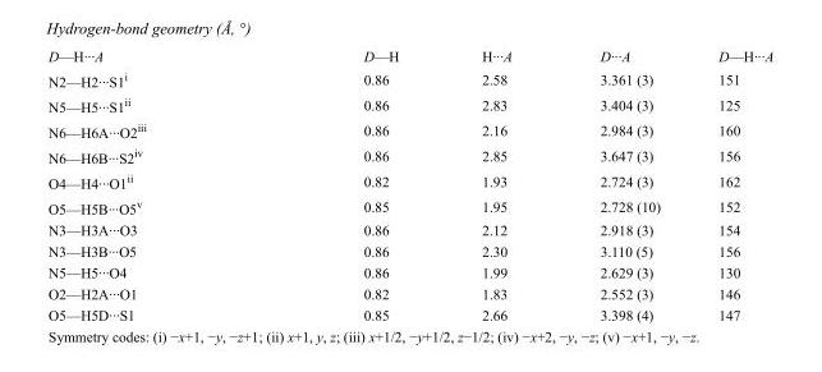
<table><tbody><tr><td>D—H···A</td><td>D—H</td><td>H···A</td><td>D···A</td><td>D—H···A</td></tr><tr><td>N2—H2···S1<sup>i</sup></td><td>0.86</td><td>2.58</td><td>3.361 (3)</td><td>151</td></tr><tr><td>N5—H5···S1<sup>ii</sup></td><td>0.86</td><td>2.83</td><td>3.404 (3)</td><td>125</td></tr><tr><td>N6—H6A···O2<sup>iii</sup></td><td>0.86</td><td>2.16</td><td>2.984 (3)</td><td>160</td></tr><tr><td>N6—H6B···S2<sup>iv</sup></td><td>0.86</td><td>2.85</td><td>3.647 (3)</td><td>156</td></tr><tr><td>O4—H4···O1<sup>ii</sup></td><td>0.82</td><td>1.93</td><td>2.724 (3)</td><td>162</td></tr><tr><td>O5—H5B···O5<sup>v</sup></td><td>0.85</td><td>1.95</td><td>2.728 (10)</td><td>152</td></tr><tr><td>N3—H3A···O3</td><td>0.86</td><td>2.12</td><td>2.918 (3)</td><td>154</td></tr><tr><td>N3—H3B···O5</td><td>0.86</td><td>2.30</td><td>3.110 (5)</td><td>156</td></tr><tr><td>N5—H5···O4</td><td>0.86</td><td>1.99</td><td>2.629 (3)</td><td>130</td></tr><tr><td>O2—H2A···O1</td><td>0.82</td><td>1.83</td><td>2.552 (3)</td><td>146</td></tr><tr><td>O5—H5D···S1</td><td>0.85</td><td>2.66</td><td>3.398 (4)</td><td>147</td></tr></tbody></table>